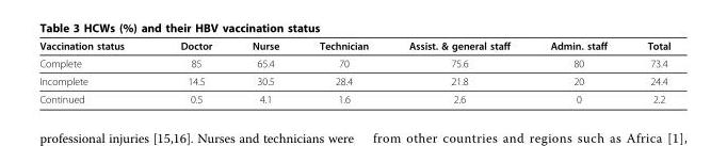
<table><thead><tr><td>Vaccination status</td><td>Doctor</td><td>Nurse</td><td>Technician</td><td>Assist. &amp; general staff</td><td>Admin. staff</td><td>Total</td></tr></thead><tbody><tr><td>Complete</td><td>85</td><td>65.4</td><td>70</td><td>75.6</td><td>80</td><td>73.4</td></tr><tr><td>Incomplete</td><td>14.5</td><td>30.5</td><td>28.4</td><td>21.8</td><td>20</td><td>24.4</td></tr><tr><td>Continued</td><td>0.5</td><td>4.1</td><td>1.6</td><td>2.6</td><td>0</td><td>2.2</td></tr></tbody></table>